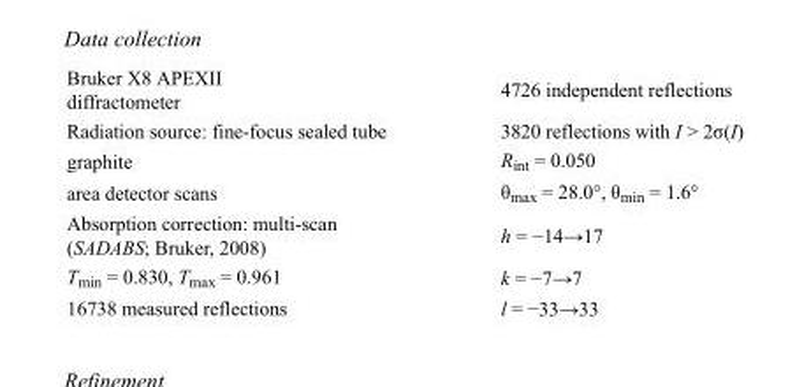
<table><tbody><tr><td>Bruker X8 APEXII diffractometer</td><td>4726 independent reflections</td></tr><tr><td>Radiation source: fine-focus sealed tube</td><td>3820 reflections with I &gt; 2σ(I)</td></tr><tr><td>graphite</td><td>R<sub>int</sub> = 0.050</td></tr><tr><td>area detector scans</td><td>θ<sub>max</sub> = 28.0°, θ<sub>min</sub> = 1.6°</td></tr><tr><td>Absorption correction: multi-scan (SADABS; Bruker, 2008)</td><td>h = −14→17</td></tr><tr><td>T<sub>min</sub> = 0.830, T<sub>max</sub> = 0.961</td><td>k = −7→7</td></tr><tr><td>16738 measured reflections</td><td>l = −33→33</td></tr></tbody></table>